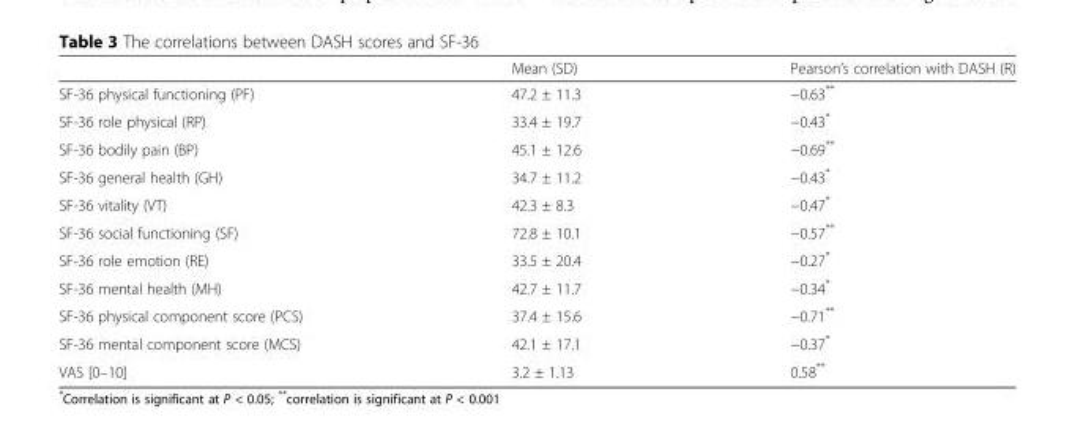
<table><thead><tr><td></td><td>Mean (SD)</td><td>Pearson’s correlation with DASH (R)</td></tr></thead><tbody><tr><td>SF-36 physical functioning (PF)</td><td>47.2 ± 11.3</td><td>−0.63**</td></tr><tr><td>SF-36 role physical (RP)</td><td>33.4 ± 19.7</td><td>−0.43*</td></tr><tr><td>SF-36 bodily pain (BP)</td><td>45.1 ± 12.6</td><td>−0.69**</td></tr><tr><td>SF-36 general health (GH)</td><td>34.7 ± 11.2</td><td>−0.43*</td></tr><tr><td>SF-36 vitality (VT)</td><td>42.3 ± 8.3</td><td>−0.47*</td></tr><tr><td>SF-36 social functioning (SF)</td><td>72.8 ± 10.1</td><td>−0.57**</td></tr><tr><td>SF-36 role emotion (RE)</td><td>33.5 ± 20.4</td><td>−0.27*</td></tr><tr><td>SF-36 mental health (MH)</td><td>42.7 ± 11.7</td><td>−0.34*</td></tr><tr><td>SF-36 physical component score (PCS)</td><td>37.4 ± 15.6</td><td>−0.71**</td></tr><tr><td>SF-36 mental component score (MCS)</td><td>42.1 ± 17.1</td><td>−0.37*</td></tr><tr><td>VAS [0–10]</td><td>3.2 ± 1.13</td><td>0.58**</td></tr></tbody></table>